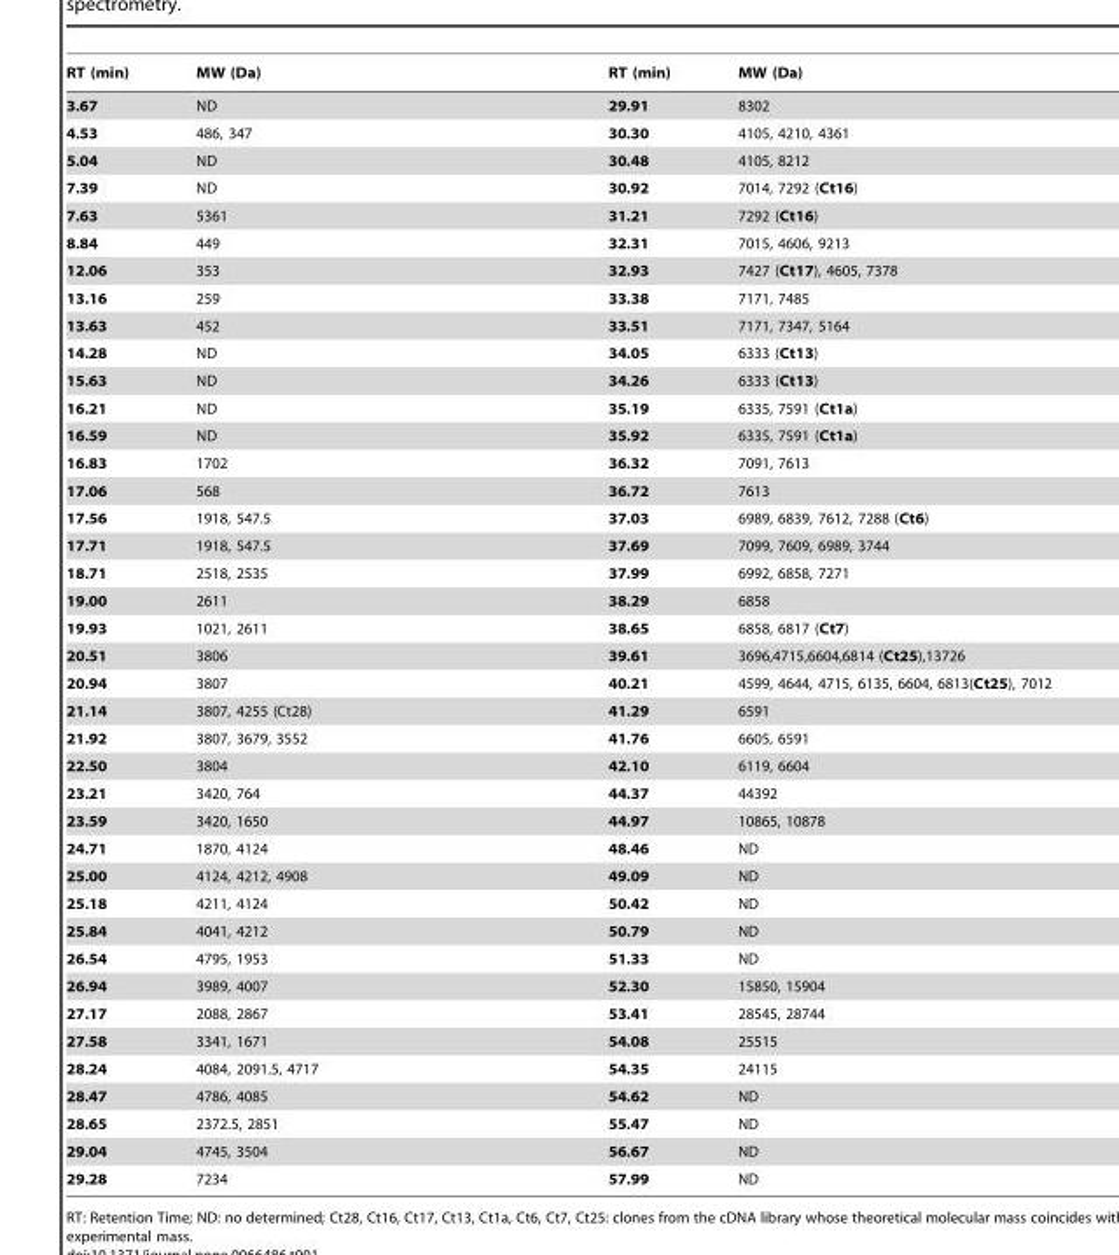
<table><thead><tr><td>RT (min)</td><td>MW (Da)</td><td>RT (min)</td><td>MW (Da)</td></tr></thead><tbody><tr><td>3.67</td><td>ND</td><td>29.91</td><td>8302</td></tr><tr><td>4.53</td><td>486, 347</td><td>30.30</td><td>4105, 4210, 4361</td></tr><tr><td>5.04</td><td>ND</td><td>30.48</td><td>4105, 8212</td></tr><tr><td>7.39</td><td>ND</td><td>30.92</td><td>7014, 7292 (Ct16)</td></tr><tr><td>7.63</td><td>5361</td><td>31.21</td><td>7292 (Ct16)</td></tr><tr><td>8.84</td><td>449</td><td>32.31</td><td>7015, 4606, 9213</td></tr><tr><td>12.06</td><td>353</td><td>32.93</td><td>7427 (Ct17), 4605, 7378</td></tr><tr><td>13.16</td><td>259</td><td>33.38</td><td>7171, 7485</td></tr><tr><td>13.63</td><td>452</td><td>33.51</td><td>7171, 7347, 5164</td></tr><tr><td>14.28</td><td>ND</td><td>34.05</td><td>6333 (Ct13)</td></tr><tr><td>15.63</td><td>ND</td><td>34.26</td><td>6333 (Ct13)</td></tr><tr><td>16.21</td><td>ND</td><td>35.19</td><td>6335, 7591 (Ct1a)</td></tr><tr><td>16.59</td><td>ND</td><td>35.92</td><td>6335, 7591 (Ct1a)</td></tr><tr><td>16.83</td><td>1702</td><td>36.32</td><td>7091, 7613</td></tr><tr><td>17.06</td><td>568</td><td>36.72</td><td>7613</td></tr><tr><td>17.56</td><td>1918, 547.5</td><td>37.03</td><td>6989, 6839, 7612, 7288 (Ct6)</td></tr><tr><td>17.71</td><td>1918, 547.5</td><td>37.69</td><td>7099, 7609, 6989, 3744</td></tr><tr><td>18.71</td><td>2518, 2535</td><td>37.99</td><td>6992, 6858, 7271</td></tr><tr><td>19.00</td><td>2611</td><td>38.29</td><td>6858</td></tr><tr><td>19.93</td><td>1021, 2611</td><td>38.65</td><td>6858, 6817 (Ct7)</td></tr><tr><td>20.51</td><td>3806</td><td>39.61</td><td>3696,4715,6604,6814 (Ct25),13726</td></tr><tr><td>20.94</td><td>3807</td><td>40.21</td><td>4599, 4644, 4715, 6135, 6604, 6813(Ct25), 7012</td></tr><tr><td>21.14</td><td>3807, 4255 (Ct28)</td><td>41.29</td><td>6591</td></tr><tr><td>21.92</td><td>3807, 3679, 3552</td><td>41.76</td><td>6605, 6591</td></tr><tr><td>22.50</td><td>3804</td><td>42.10</td><td>6119, 6604</td></tr><tr><td>23.21</td><td>3420, 764</td><td>44.37</td><td>44392</td></tr><tr><td>23.59</td><td>3420, 1650</td><td>44.97</td><td>10865, 10878</td></tr><tr><td>24.71</td><td>1870, 4124</td><td>48.46</td><td>ND</td></tr><tr><td>25.00</td><td>4124, 4212, 4908</td><td>49.09</td><td>ND</td></tr><tr><td>25.18</td><td>4211, 4124</td><td>50.42</td><td>ND</td></tr><tr><td>25.84</td><td>4041, 4212</td><td>50.79</td><td>ND</td></tr><tr><td>26.54</td><td>4795, 1953</td><td>51.33</td><td>ND</td></tr><tr><td>26.94</td><td>3989, 4007</td><td>52.30</td><td>15850, 15904</td></tr><tr><td>27.17</td><td>2088, 2867</td><td>53.41</td><td>28545, 28744</td></tr><tr><td>27.58</td><td>3341, 1671</td><td>54.08</td><td>25515</td></tr><tr><td>28.24</td><td>4084, 2091.5, 4717</td><td>54.35</td><td>24115</td></tr><tr><td>28.47</td><td>4786, 4085</td><td>54.62</td><td>ND</td></tr><tr><td>28.65</td><td>2372.5, 2851</td><td>55.47</td><td>ND</td></tr><tr><td>29.04</td><td>4745, 3504</td><td>56.67</td><td>ND</td></tr><tr><td>29.28</td><td>7234</td><td>57.99</td><td>ND</td></tr></tbody></table>